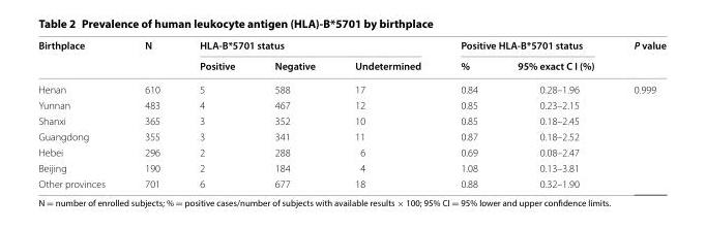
<table><thead><tr><td rowspan="2">Birthplace</td><td rowspan="2">N</td><td colspan="3">HLA‑B*5701 status</td><td colspan="2">Positive HLA‑B*5701 status</td><td rowspan="2">P value</td></tr><tr><td>Positive</td><td>Negative</td><td>Undetermined</td><td>%</td><td>95% exact C I (%)</td></tr></thead><tbody><tr><td>Henan</td><td>610</td><td>5</td><td>588</td><td>17</td><td>0.84</td><td>0.28–1.96</td><td rowspan="7">0.999</td></tr><tr><td>Yunnan</td><td>483</td><td>4</td><td>467</td><td>12</td><td>0.85</td><td>0.23–2.15</td></tr><tr><td>Shanxi</td><td>365</td><td>3</td><td>352</td><td>10</td><td>0.85</td><td>0.18–2.45</td></tr><tr><td>Guangdong</td><td>355</td><td>3</td><td>341</td><td>11</td><td>0.87</td><td>0.18–2.52</td></tr><tr><td>Hebei</td><td>296</td><td>2</td><td>288</td><td>6</td><td>0.69</td><td>0.08–2.47</td></tr><tr><td>Beijing</td><td>190</td><td>2</td><td>184</td><td>4</td><td>1.08</td><td>0.13–3.81</td></tr><tr><td>Other provinces</td><td>701</td><td>6</td><td>677</td><td>18</td><td>0.88</td><td>0.32–1.90</td></tr></tbody></table>